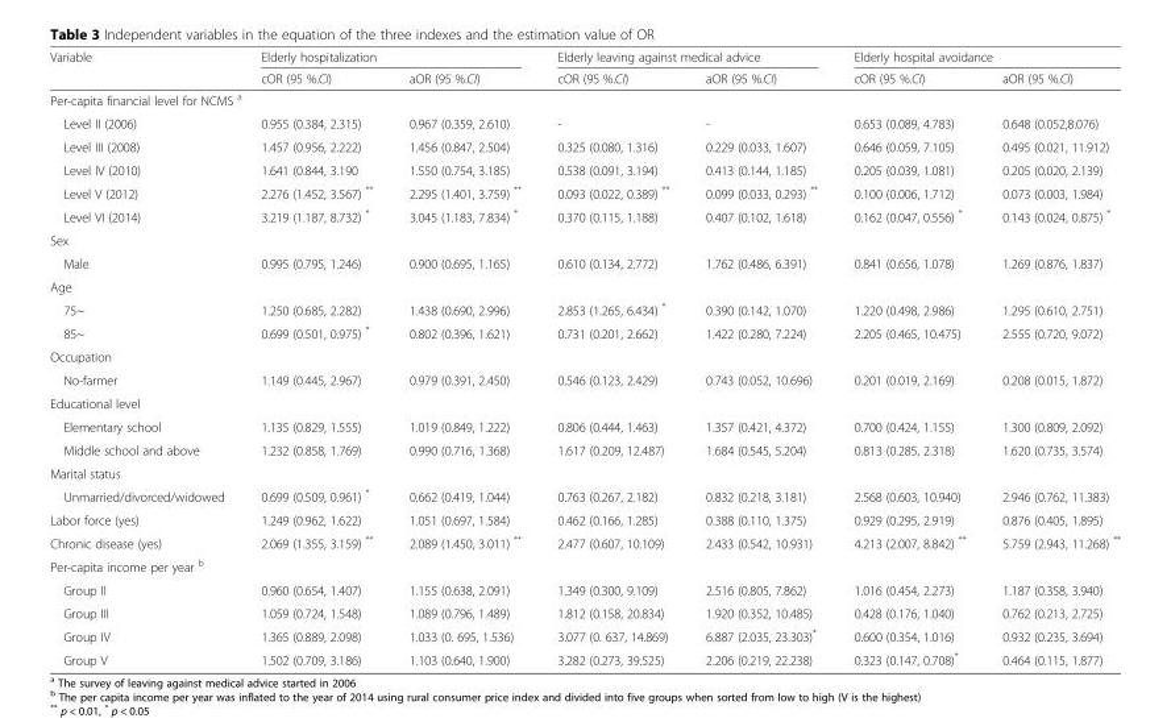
<table><thead><tr><td rowspan="2">Variable</td><td colspan="2">Elderly hospitalization</td><td colspan="2">Elderly leaving against medical advice</td><td colspan="2">Elderly hospital avoidance</td></tr><tr><td>cOR (95 %.CI)</td><td>aOR (95 %.CI)</td><td>cOR (95 %.CI)</td><td>aOR (95 %.CI)</td><td>cOR (95 %.CI)</td><td>aOR (95 %.CI)</td></tr></thead><tbody><tr><td colspan="7">Per-capita financial level for NCMS <sup>a</sup></td></tr><tr><td>Level II (2006)</td><td>0.955 (0.384, 2.315)</td><td>0.967 (0.359, 2.610)</td><td>-</td><td>-</td><td>0.653 (0.089, 4.783)</td><td>0.648 (0.052,8.076)</td></tr><tr><td>Level III (2008)</td><td>1.457 (0.956, 2.222)</td><td>1.456 (0.847, 2.504)</td><td>0.325 (0.080, 1.316)</td><td>0.229 (0.033, 1.607)</td><td>0.646 (0.059, 7.105)</td><td>0.495 (0.021, 11.912)</td></tr><tr><td>Level IV (2010)</td><td>1.641 (0.844, 3.190</td><td>1.550 (0.754, 3.185)</td><td>0.538 (0.091, 3.194)</td><td>0.413 (0.144, 1.185)</td><td>0.205 (0.039, 1.081)</td><td>0.205 (0.020, 2.139)</td></tr><tr><td>Level V (2012)</td><td>2.276 (1.452, 3.567) **</td><td>2.295 (1.401, 3.759) **</td><td>0.093 (0.022, 0.389) **</td><td>0.099 (0.033, 0.293) **</td><td>0.100 (0.006, 1.712)</td><td>0.073 (0.003, 1.984)</td></tr><tr><td>Level VI (2014)</td><td>3.219 (1.187, 8.732) *</td><td>3.045 (1.183, 7.834) *</td><td>0.370 (0.115, 1.188)</td><td>0.407 (0.102, 1.618)</td><td>0.162 (0.047, 0.556) *</td><td>0.143 (0.024, 0.875) *</td></tr><tr><td colspan="7">Sex</td></tr><tr><td>Male</td><td>0.995 (0.795, 1.246)</td><td>0.900 (0.695, 1.165)</td><td>0.610 (0.134, 2.772)</td><td>1.762 (0.486, 6.391)</td><td>0.841 (0.656, 1.078)</td><td>1.269 (0.876, 1.837)</td></tr><tr><td colspan="7">Age</td></tr><tr><td>75~</td><td>1.250 (0.685, 2.282)</td><td>1.438 (0.690, 2.996)</td><td>2.853 (1.265, 6.434) *</td><td>0.390 (0.142, 1.070)</td><td>1.220 (0.498, 2.986)</td><td>1.295 (0.610, 2.751)</td></tr><tr><td>85~</td><td>0.699 (0.501, 0.975) *</td><td>0.802 (0.396, 1.621)</td><td>0.731 (0.201, 2.662)</td><td>1.422 (0.280, 7.224)</td><td>2.205 (0.465, 10.475)</td><td>2.555 (0.720, 9.072)</td></tr><tr><td colspan="7">Occupation</td></tr><tr><td>No-farmer</td><td>1.149 (0.445, 2.967)</td><td>0.979 (0.391, 2.450)</td><td>0.546 (0.123, 2.429)</td><td>0.743 (0.052, 10.696)</td><td>0.201 (0.019, 2.169)</td><td>0.208 (0.015, 1.872)</td></tr><tr><td colspan="7">Educational level</td></tr><tr><td>Elementary school</td><td>1.135 (0.829, 1.555)</td><td>1.019 (0.849, 1.222)</td><td>0.806 (0.444, 1.463)</td><td>1.357 (0.421, 4.372)</td><td>0.700 (0.424, 1.155)</td><td>1.300 (0.809, 2.092)</td></tr><tr><td>Middle school and above</td><td>1.232 (0.858, 1.769)</td><td>0.990 (0.716, 1.368)</td><td>1.617 (0.209, 12.487)</td><td>1.684 (0.545, 5.204)</td><td>0.813 (0.285, 2.318)</td><td>1.620 (0.735, 3.574)</td></tr><tr><td colspan="7">Marital status</td></tr><tr><td>Unmarried/divorced/widowed</td><td>0.699 (0.509, 0.961) *</td><td>0.662 (0.419, 1.044)</td><td>0.763 (0.267, 2.182)</td><td>0.832 (0.218, 3.181)</td><td>2.568 (0.603, 10.940)</td><td>2.946 (0.762, 11.383)</td></tr><tr><td>Labor force (yes)</td><td>1.249 (0.962, 1.622)</td><td>1.051 (0.697, 1.584)</td><td>0.462 (0.166, 1.285)</td><td>0.388 (0.110, 1.375)</td><td>0.929 (0.295, 2.919)</td><td>0.876 (0.405, 1.895)</td></tr><tr><td>Chronic disease (yes)</td><td>2.069 (1.355, 3.159) **</td><td>2.089 (1.450, 3.011) **</td><td>2.477 (0.607, 10.109)</td><td>2.433 (0.542, 10.931)</td><td>4.213 (2.007, 8.842) **</td><td>5.759 (2.943, 11.268) **</td></tr><tr><td colspan="7">Per-capita income per year <sup>b</sup></td></tr><tr><td>Group II</td><td>0.960 (0.654, 1.407)</td><td>1.155 (0.638, 2.091)</td><td>1.349 (0.300, 9.109)</td><td>2.516 (0.805, 7.862)</td><td>1.016 (0.454, 2.273)</td><td>1.187 (0.358, 3.940)</td></tr><tr><td>Group III</td><td>1.059 (0.724, 1.548)</td><td>1.089 (0.796, 1.489)</td><td>1.812 (0.158, 20.834)</td><td>1.920 (0.352, 10.485)</td><td>0.428 (0.176, 1.040)</td><td>0.762 (0.213, 2.725)</td></tr><tr><td>Group IV</td><td>1.365 (0.889, 2.098)</td><td>1.033 (0. 695, 1.536)</td><td>3.077 (0. 637, 14.869)</td><td>6.887 (2.035, 23.303)*</td><td>0.600 (0.354, 1.016)</td><td>0.932 (0.235, 3.694)</td></tr><tr><td>Group V</td><td>1.502 (0.709, 3.186)</td><td>1.103 (0.640, 1.900)</td><td>3.282 (0.273, 39.525)</td><td>2.206 (0.219, 22.238)</td><td>0.323 (0.147, 0.708)*</td><td>0.464 (0.115, 1.877)</td></tr></tbody></table>